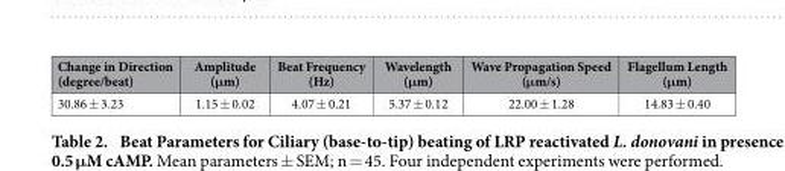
<table><thead><tr><td>Change in Direction (degree/beat)</td><td>Amplitude (μm)</td><td>Beat Frequency (Hz)</td><td>Wavelength (μm)</td><td>Wave Propagation Speed (μm/s)</td><td>Flagellum Length (μm)</td></tr></thead><tbody><tr><td>30.86 ± 3.23</td><td>1.15 ± 0.02</td><td>4.07 ± 0.21</td><td>5.37 ± 0.12</td><td>22.00 ± 1.28</td><td>14.83 ± 0.40</td></tr></tbody></table>